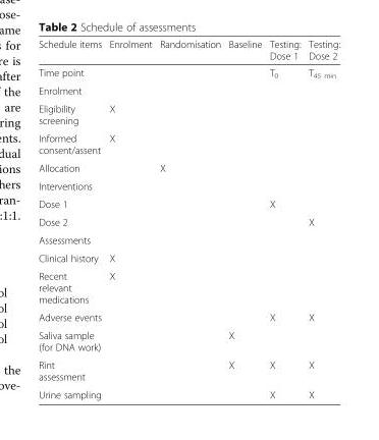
<table><thead><tr><td>Schedule items</td><td>Enrolment</td><td>Randomisation</td><td>Baseline</td><td>Testing: Dose 1</td><td>Testing: Dose 2</td></tr></thead><tbody><tr><td>Time point</td><td></td><td></td><td></td><td>T<sub>0</sub></td><td>T<sub>45 min</sub></td></tr><tr><td colspan="6">Enrolment</td></tr><tr><td>Eligibility screening</td><td>X</td><td></td><td></td><td></td><td></td></tr><tr><td>Informed consent/assent</td><td>X</td><td></td><td></td><td></td><td></td></tr><tr><td>Allocation</td><td></td><td>X</td><td></td><td></td><td></td></tr><tr><td colspan="6">Interventions</td></tr><tr><td>Dose 1</td><td></td><td></td><td></td><td>X</td><td></td></tr><tr><td>Dose 2</td><td></td><td></td><td></td><td></td><td>X</td></tr><tr><td colspan="6">Assessments</td></tr><tr><td>Clinical history</td><td>X</td><td></td><td></td><td></td><td></td></tr><tr><td>Recent relevant medications</td><td>X</td><td></td><td></td><td></td><td></td></tr><tr><td>Adverse events</td><td></td><td></td><td></td><td>X</td><td>X</td></tr><tr><td>Saliva sample (for DNA work)</td><td></td><td></td><td>X</td><td></td><td></td></tr><tr><td>Rint assessment</td><td></td><td></td><td>X</td><td>X</td><td>X</td></tr><tr><td>Urine sampling</td><td></td><td></td><td></td><td>X</td><td>X</td></tr></tbody></table>